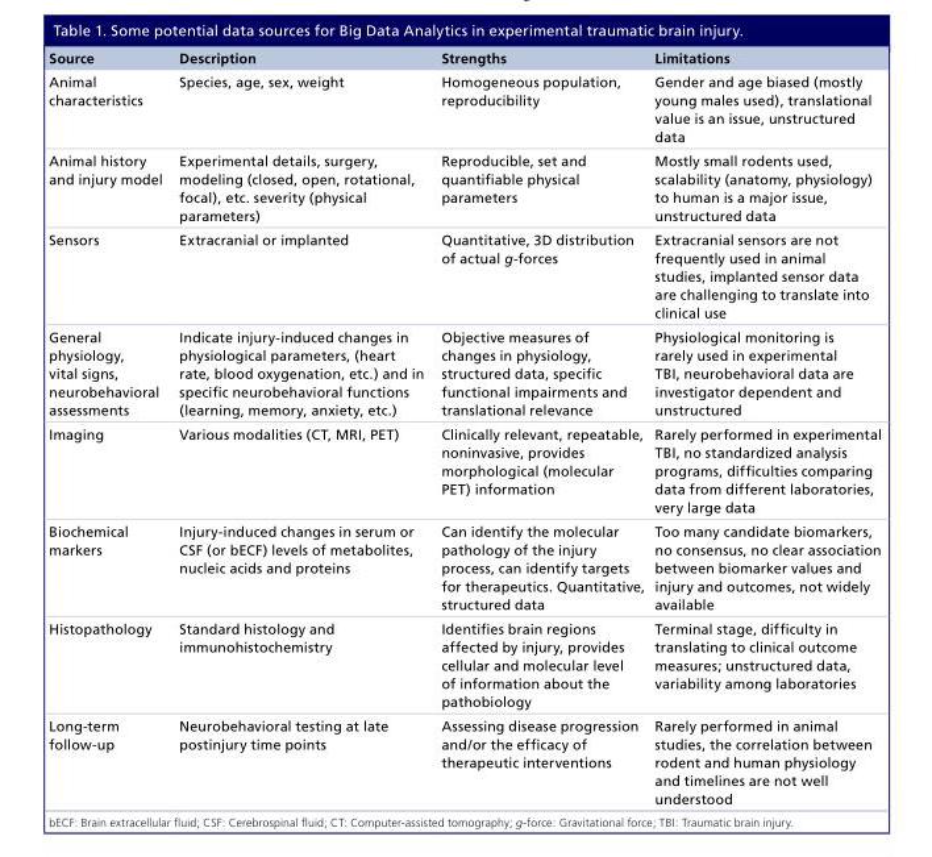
<table><thead><tr><td>Source</td><td>Description</td><td>Strengths</td><td>Limitations</td></tr></thead><tbody><tr><td>Animal characteristics</td><td>Species, age, sex, weight</td><td>Homogeneous population, reproducibility</td><td>Gender and age biased (mostly young males used), translational value is an issue, unstructured data</td></tr><tr><td>Animal history and injury model</td><td>Experimental details, surgery, modeling (closed, open, rotational, focal), etc. severity (physical parameters)</td><td>Reproducible, set and quantifiable physical parameters</td><td>Mostly small rodents used, scalability (anatomy, physiology) to human is a major issue, unstructured data</td></tr><tr><td>Sensors</td><td>Extracranial or implanted</td><td>Quantitative, 3D distribution of actual g-forces</td><td>Extracranial sensors are not frequently used in animal studies, implanted sensor data are challenging to translate into clinical use</td></tr><tr><td>General physiology, vital signs, neurobehavioral assessments</td><td>Indicate injury-induced changes in physiological parameters, (heart rate, blood oxygenation, etc.) and in specific neurobehavioral functions (learning, memory, anxiety, etc.)</td><td>Objective measures of changes in physiology, structured data, specific functional impairments and translational relevance</td><td>Physiological monitoring is rarely used in experimental TBI, neurobehavioral data are investigator dependent and unstructured</td></tr><tr><td>Imaging</td><td>Various modalities (CT, MRI, PET)</td><td>Clinically relevant, repeatable, noninvasive, provides morphological (molecular PET) information</td><td>Rarely performed in experimental TBI, no standardized analysis programs, difficulties comparing data from different laboratories, very large data</td></tr><tr><td>Biochemical markers</td><td>Injury-induced changes in serum or CSF (or bECF) levels of metabolites, nucleic acids and proteins</td><td>Can identify the molecular pathology of the injury process, can identify targets for therapeutics. Quantitative, structured data</td><td>Too many candidate biomarkers, no consensus, no clear association between biomarker values and injury and outcomes, not widely available</td></tr><tr><td>Histopathology</td><td>Standard histology and immunohistochemistry</td><td>Identifies brain regions affected by injury, provides cellular and molecular level of information about the pathobiology</td><td>Terminal stage, difficulty in translating to clinical outcome measures; unstructured data, variability among laboratories</td></tr><tr><td>Long-term follow-up</td><td>Neurobehavioral testing at late postinjury time points</td><td>Assessing disease progression and/or the efficacy of therapeutic interventions</td><td>Rarely performed in animal studies, the correlation between rodent and human physiology and timelines are not well understood</td></tr></tbody></table>